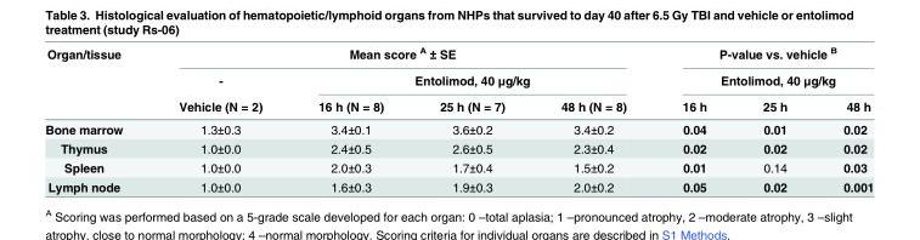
<table><thead><tr><td rowspan="3">Organ/tissue</td><td colspan="4">Mean score <sup>A</sup> ± SE</td><td rowspan="2" colspan="3">P-value vs. vehicle <sup>B</sup> Entolimod, 40 μg/kg</td></tr><tr><td rowspan="2">- Vehicle (N = 2)</td><td colspan="3">Entolimod, 40 μg/kg</td></tr><tr><td>16 h (N = 8)</td><td>25 h (N = 7)</td><td>48 h (N = 8)</td><td>16 h</td><td>25 h</td><td>48 h</td></tr></thead><tbody><tr><td>Bone marrow</td><td>1.3±0.3</td><td>3.4±0.1</td><td>3.6±0.2</td><td>3.4±0.2</td><td>0.04</td><td>0.01</td><td>0.02</td></tr><tr><td>Thymus</td><td>1.0±0.0</td><td>2.4±0.5</td><td>2.6±0.5</td><td>2.3±0.4</td><td>0.02</td><td>0.02</td><td>0.02</td></tr><tr><td>Spleen</td><td>1.0±0.0</td><td>2.0±0.3</td><td>1.7±0.4</td><td>1.5±0.2</td><td>0.01</td><td>0.14</td><td>0.03</td></tr><tr><td>Lymph node</td><td>1.0±0.0</td><td>1.6±0.3</td><td>1.9±0.3</td><td>2.0±0.2</td><td>0.05</td><td>0.02</td><td>0.001</td></tr></tbody></table>